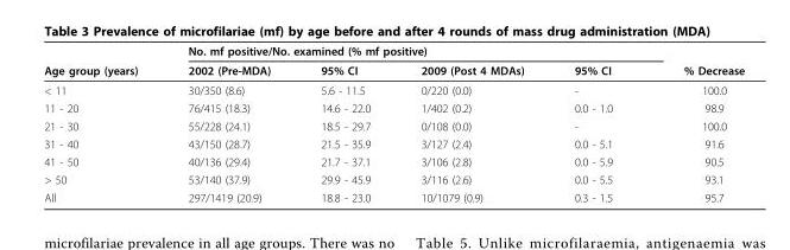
<table><thead><tr><td rowspan="2">Age group (years)</td><td colspan="3">No. mf positive/No. examined (% mf positive)</td><td rowspan="2">95% CI</td><td rowspan="2">% Decrease</td></tr><tr><td>2002 (Pre-MDA)</td><td>95% CI</td><td>2009 (Post 4 MDAs)</td></tr></thead><tbody><tr><td>&lt; 11</td><td>30/350 (8.6)</td><td>5.6 - 11.5</td><td>0/220 (0.0)</td><td>-</td><td>100.0</td></tr><tr><td>11 - 20</td><td>76/415 (18.3)</td><td>14.6 - 22.0</td><td>1/402 (0.2)</td><td>0.0 - 1.0</td><td>98.9</td></tr><tr><td>21 - 30</td><td>55/228 (24.1)</td><td>18.5 - 29.7</td><td>0/108 (0.0)</td><td>-</td><td>100.0</td></tr><tr><td>31 - 40</td><td>43/150 (28.7)</td><td>21.5 - 35.9</td><td>3/127 (2.4)</td><td>0.0 - 5.1</td><td>91.6</td></tr><tr><td>41 - 50</td><td>40/136 (29.4)</td><td>21.7 - 37.1</td><td>3/106 (2.8)</td><td>0.0 - 5.9</td><td>90.5</td></tr><tr><td>&gt; 50</td><td>53/140 (37.9)</td><td>29.9 - 45.9</td><td>3/116 (2.6)</td><td>0.0 - 5.5</td><td>93.1</td></tr><tr><td>All</td><td>297/1419 (20.9)</td><td>18.8 - 23.0</td><td>10/1079 (0.9)</td><td>0.3 - 1.5</td><td>95.7</td></tr></tbody></table>